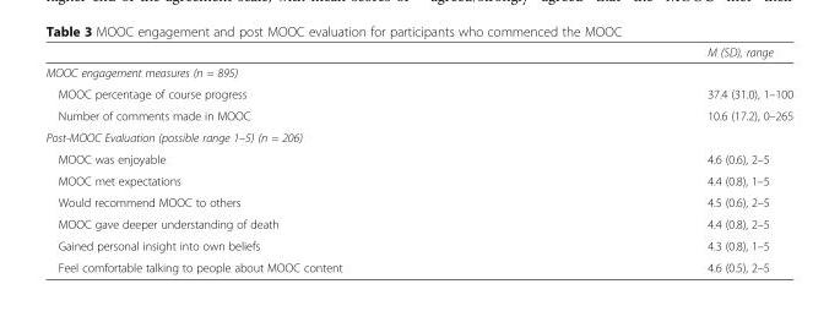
<table><thead><tr><td></td><td>M (SD), range</td></tr></thead><tbody><tr><td colspan="2">MOOC engagement measures (n = 895)</td></tr><tr><td>MOOC percentage of course progress</td><td>37.4 (31.0), 1–100</td></tr><tr><td>Number of comments made in MOOC</td><td>10.6 (17.2), 0–265</td></tr><tr><td colspan="2">Post-MOOC Evaluation (possible range 1–5) (n = 206)</td></tr><tr><td>MOOC was enjoyable</td><td>4.6 (0.6), 2–5</td></tr><tr><td>MOOC met expectations</td><td>4.4 (0.8), 1–5</td></tr><tr><td>Would recommend MOOC to others</td><td>4.5 (0.6), 2–5</td></tr><tr><td>MOOC gave deeper understanding of death</td><td>4.4 (0.8), 2–5</td></tr><tr><td>Gained personal insight into own beliefs</td><td>4.3 (0.8), 1–5</td></tr><tr><td>Feel comfortable talking to people about MOOC content</td><td>4.6 (0.5), 2–5</td></tr></tbody></table>